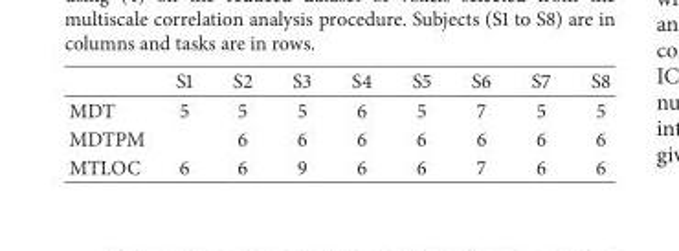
<table><thead><tr><td></td><td>S1</td><td>S2</td><td>S3</td><td>S4</td><td>S5</td><td>S6</td><td>S7</td><td>S8</td></tr></thead><tbody><tr><td>MDT</td><td>5</td><td>5</td><td>5</td><td>6</td><td>5</td><td>7</td><td>5</td><td>5</td></tr><tr><td>MDTPM</td><td></td><td>6</td><td>6</td><td>6</td><td>6</td><td>6</td><td>6</td><td>6</td></tr><tr><td>MTLOC</td><td>6</td><td>6</td><td>9</td><td>6</td><td>6</td><td>7</td><td>6</td><td>6</td></tr></tbody></table>